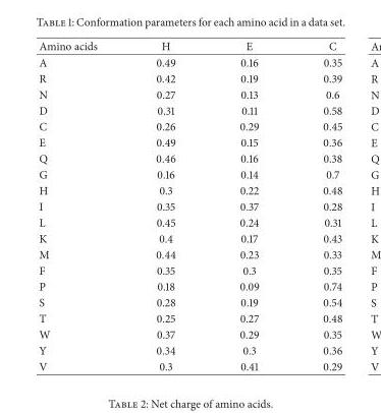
<table><thead><tr><td>Amino acids</td><td>H</td><td>E</td><td>C</td></tr></thead><tbody><tr><td>A</td><td>0.49</td><td>0.16</td><td>0.35</td></tr><tr><td>R</td><td>0.42</td><td>0.19</td><td>0.39</td></tr><tr><td>N</td><td>0.27</td><td>0.13</td><td>0.6</td></tr><tr><td>D</td><td>0.31</td><td>0.11</td><td>0.58</td></tr><tr><td>C</td><td>0.26</td><td>0.29</td><td>0.45</td></tr><tr><td>E</td><td>0.49</td><td>0.15</td><td>0.36</td></tr><tr><td>Q</td><td>0.46</td><td>0.16</td><td>0.38</td></tr><tr><td>G</td><td>0.16</td><td>0.14</td><td>0.7</td></tr><tr><td>H</td><td>0.3</td><td>0.22</td><td>0.48</td></tr><tr><td>I</td><td>0.35</td><td>0.37</td><td>0.28</td></tr><tr><td>L</td><td>0.45</td><td>0.24</td><td>0.31</td></tr><tr><td>K</td><td>0.4</td><td>0.17</td><td>0.43</td></tr><tr><td>M</td><td>0.44</td><td>0.23</td><td>0.33</td></tr><tr><td>F</td><td>0.35</td><td>0.3</td><td>0.35</td></tr><tr><td>P</td><td>0.18</td><td>0.09</td><td>0.74</td></tr><tr><td>S</td><td>0.28</td><td>0.19</td><td>0.54</td></tr><tr><td>T</td><td>0.25</td><td>0.27</td><td>0.48</td></tr><tr><td>W</td><td>0.37</td><td>0.29</td><td>0.35</td></tr><tr><td>Y</td><td>0.34</td><td>0.3</td><td>0.36</td></tr><tr><td>V</td><td>0.3</td><td>0.41</td><td>0.29</td></tr></tbody></table>